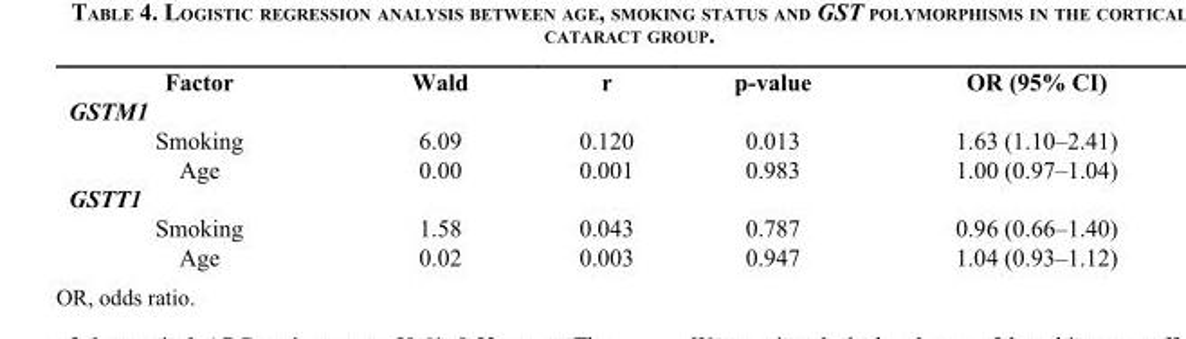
<table><thead><tr><td>Factor</td><td>Wald</td><td>r</td><td>p-value</td><td>OR (95% CI)</td></tr></thead><tbody><tr><td colspan="5">GSTM1</td></tr><tr><td>Smoking</td><td>6.09</td><td>0.120</td><td>0.013</td><td>1.63 (1.10–2.41)</td></tr><tr><td>Age</td><td>0.00</td><td>0.001</td><td>0.983</td><td>1.00 (0.97–1.04)</td></tr><tr><td colspan="5">GSTT1</td></tr><tr><td>Smoking</td><td>1.58</td><td>0.043</td><td>0.787</td><td>0.96 (0.66–1.40)</td></tr><tr><td>Age</td><td>0.02</td><td>0.003</td><td>0.947</td><td>1.04 (0.93–1.12)</td></tr></tbody></table>